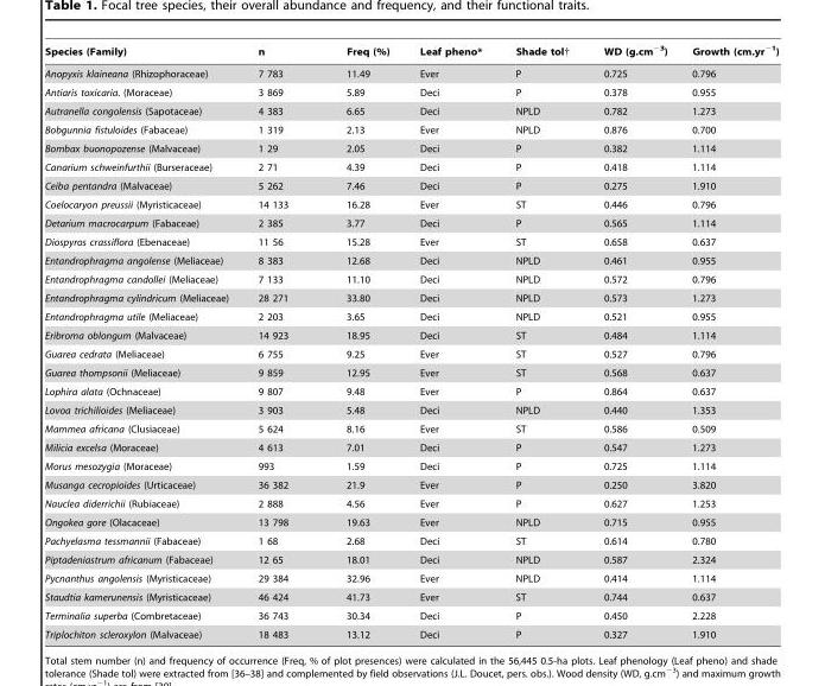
<table><thead><tr><td>Species (Family)</td><td>n</td><td>Freq (%)</td><td>Leaf pheno*</td><td>Shade tol†</td><td>WD (g.cm<sup>−3</sup>)</td><td>Growth (cm.yr<sup>−1</sup>)</td></tr></thead><tbody><tr><td>Anopyxis klaineana (Rhizophoraceae)</td><td>7 783</td><td>11.49</td><td>Ever</td><td>P</td><td>0.725</td><td>0.796</td></tr><tr><td>Antiaris toxicaria. (Moraceae)</td><td>3 869</td><td>5.89</td><td>Deci</td><td>P</td><td>0.378</td><td>0.955</td></tr><tr><td>Autranella congolensis (Sapotaceae)</td><td>4 383</td><td>6.65</td><td>Deci</td><td>NPLD</td><td>0.782</td><td>1.273</td></tr><tr><td>Bobgunnia fistuloides (Fabaceae)</td><td>1 319</td><td>2.13</td><td>Ever</td><td>NPLD</td><td>0.876</td><td>0.700</td></tr><tr><td>Bombax buonopozense (Malvaceae)</td><td>1 29</td><td>2.05</td><td>Deci</td><td>P</td><td>0.382</td><td>1.114</td></tr><tr><td>Canarium schweinfurthii (Burseraceae)</td><td>2 71</td><td>4.39</td><td>Deci</td><td>P</td><td>0.418</td><td>1.114</td></tr><tr><td>Ceiba pentandra (Malvaceae)</td><td>5 262</td><td>7.46</td><td>Deci</td><td>P</td><td>0.275</td><td>1.910</td></tr><tr><td>Coelocaryon preussii (Myristicaceae)</td><td>14 133</td><td>16.28</td><td>Ever</td><td>ST</td><td>0.446</td><td>0.796</td></tr><tr><td>Detarium macrocarpum (Fabaceae)</td><td>2 385</td><td>3.77</td><td>Deci</td><td>P</td><td>0.565</td><td>1.114</td></tr><tr><td>Diospyros crassiflora (Ebenaceae)</td><td>11 56</td><td>15.28</td><td>Ever</td><td>ST</td><td>0.658</td><td>0.637</td></tr><tr><td>Entandrophragma angolense (Meliaceae)</td><td>8 383</td><td>12.68</td><td>Deci</td><td>NPLD</td><td>0.461</td><td>0.955</td></tr><tr><td>Entandrophragma candollei (Meliaceae)</td><td>7 133</td><td>11.10</td><td>Deci</td><td>NPLD</td><td>0.572</td><td>0.796</td></tr><tr><td>Entandrophragma cylindricum (Meliaceae)</td><td>28 271</td><td>33.80</td><td>Deci</td><td>NPLD</td><td>0.573</td><td>1.273</td></tr><tr><td>Entandrophragma utile (Meliaceae)</td><td>2 203</td><td>3.65</td><td>Deci</td><td>NPLD</td><td>0.521</td><td>0.955</td></tr><tr><td>Eribroma oblongum (Malvaceae)</td><td>14 923</td><td>18.95</td><td>Deci</td><td>ST</td><td>0.484</td><td>1.114</td></tr><tr><td>Guarea cedrata (Meliaceae)</td><td>6 755</td><td>9.25</td><td>Ever</td><td>ST</td><td>0.527</td><td>0.796</td></tr><tr><td>Guarea thompsonii (Meliaceae)</td><td>9 859</td><td>12.95</td><td>Ever</td><td>ST</td><td>0.568</td><td>0.637</td></tr><tr><td>Lophira alata (Ochnaceae)</td><td>9 807</td><td>9.48</td><td>Ever</td><td>P</td><td>0.864</td><td>0.637</td></tr><tr><td>Lovoa trichilioides (Meliaceae)</td><td>3 903</td><td>5.48</td><td>Deci</td><td>NPLD</td><td>0.440</td><td>1.353</td></tr><tr><td>Mammea africana (Clusiaceae)</td><td>5 624</td><td>8.16</td><td>Ever</td><td>ST</td><td>0.586</td><td>0.509</td></tr><tr><td>Milicia excelsa (Moraceae)</td><td>4 613</td><td>7.01</td><td>Deci</td><td>P</td><td>0.547</td><td>1.273</td></tr><tr><td>Morus mesozygia (Moraceae)</td><td>993</td><td>1.59</td><td>Deci</td><td>P</td><td>0.725</td><td>1.114</td></tr><tr><td>Musanga cecropioides (Urticaceae)</td><td>36 382</td><td>21.9</td><td>Ever</td><td>P</td><td>0.250</td><td>3.820</td></tr><tr><td>Nauclea diderrichii (Rubiaceae)</td><td>2 888</td><td>4.56</td><td>Ever</td><td>P</td><td>0.627</td><td>1.253</td></tr><tr><td>Ongokea gore (Olacaceae)</td><td>13 798</td><td>19.63</td><td>Ever</td><td>NPLD</td><td>0.715</td><td>0.955</td></tr><tr><td>Pachyelasma tessmannii (Fabaceae)</td><td>1 68</td><td>2.68</td><td>Deci</td><td>ST</td><td>0.614</td><td>0.780</td></tr><tr><td>Piptadeniastrum africanum (Fabaceae)</td><td>12 65</td><td>18.01</td><td>Deci</td><td>NPLD</td><td>0.587</td><td>2.324</td></tr><tr><td>Pycnanthus angolensis (Myristicaceae)</td><td>29 384</td><td>32.96</td><td>Ever</td><td>NPLD</td><td>0.414</td><td>1.114</td></tr><tr><td>Staudtia kamerunensis (Myristicaceae)</td><td>46 424</td><td>41.73</td><td>Ever</td><td>ST</td><td>0.744</td><td>0.637</td></tr><tr><td>Terminalia superba (Combretaceae)</td><td>36 743</td><td>30.34</td><td>Deci</td><td>P</td><td>0.450</td><td>2.228</td></tr><tr><td>Triplochiton scleroxylon (Malvaceae)</td><td>18 483</td><td>13.12</td><td>Deci</td><td>P</td><td>0.327</td><td>1.910</td></tr></tbody></table>